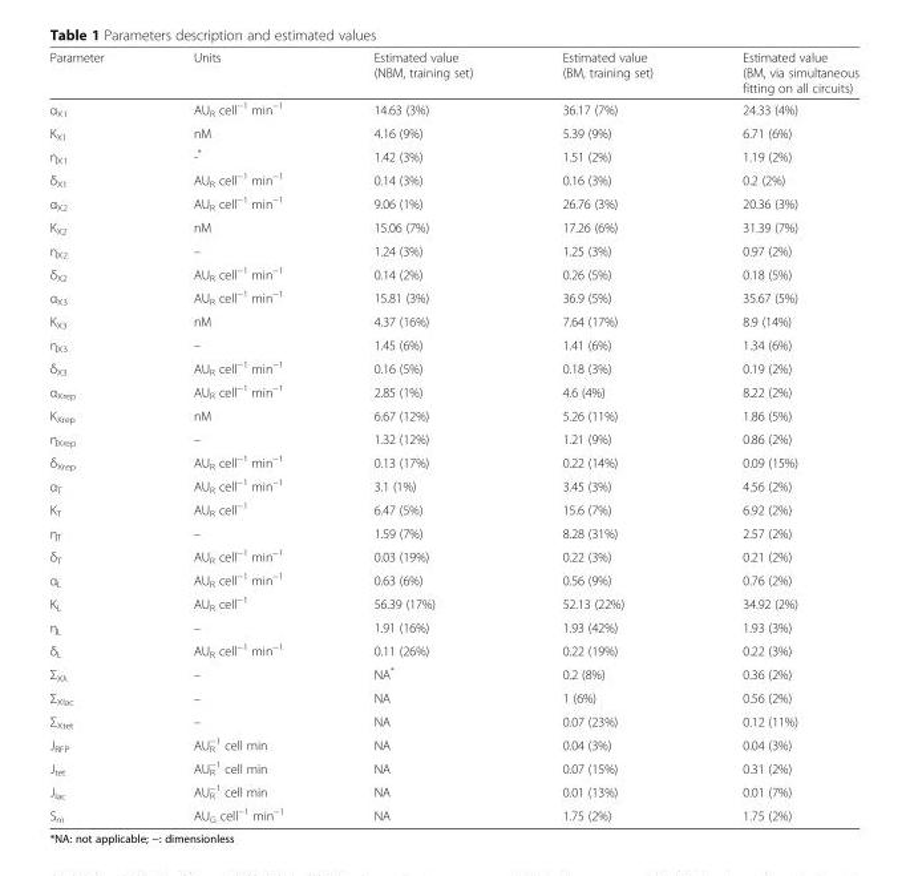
<table><thead><tr><td>Parameter</td><td>Units</td><td>Estimated value (NBM, training set)</td><td>Estimated value (BM, training set)</td><td>Estimated value (BM, via simultaneous fitting on all circuits)</td></tr></thead><tbody><tr><td>α<sub>X1</sub></td><td>AU<sub>R</sub> cell<sup>−1</sup> min<sup>−1</sup></td><td>14.63 (3%)</td><td>36.17 (7%)</td><td>24.33 (4%)</td></tr><tr><td>K<sub>X1</sub></td><td>nM</td><td>4.16 (9%)</td><td>5.39 (9%)</td><td>6.71 (6%)</td></tr><tr><td>η<sub>X1</sub></td><td>-*</td><td>1.42 (3%)</td><td>1.51 (2%)</td><td>1.19 (2%)</td></tr><tr><td>δ<sub>X1</sub></td><td>AU<sub>R</sub> cell<sup>−1</sup> min<sup>−1</sup></td><td>0.14 (3%)</td><td>0.16 (3%)</td><td>0.2 (2%)</td></tr><tr><td>α<sub>X2</sub></td><td>AU<sub>R</sub> cell<sup>−1</sup> min<sup>−1</sup></td><td>9.06 (1%)</td><td>26.76 (3%)</td><td>20.36 (3%)</td></tr><tr><td>K<sub>X2</sub></td><td>nM</td><td>15.06 (7%)</td><td>17.26 (6%)</td><td>31.39 (7%)</td></tr><tr><td>η<sub>X2</sub></td><td>–</td><td>1.24 (3%)</td><td>1.25 (3%)</td><td>0.97 (2%)</td></tr><tr><td>δ<sub>X2</sub></td><td>AU<sub>R</sub> cell<sup>−1</sup> min<sup>−1</sup></td><td>0.14 (2%)</td><td>0.26 (5%)</td><td>0.18 (5%)</td></tr><tr><td>α<sub>X3</sub></td><td>AU<sub>R</sub> cell<sup>−1</sup> min<sup>−1</sup></td><td>15.81 (3%)</td><td>36.9 (5%)</td><td>35.67 (5%)</td></tr><tr><td>K<sub>X3</sub></td><td>nM</td><td>4.37 (16%)</td><td>7.64 (17%)</td><td>8.9 (14%)</td></tr><tr><td>η<sub>X3</sub></td><td>–</td><td>1.45 (6%)</td><td>1.41 (6%)</td><td>1.34 (6%)</td></tr><tr><td>δ<sub>X3</sub></td><td>AU<sub>R</sub> cell<sup>−1</sup> min<sup>−1</sup></td><td>0.16 (5%)</td><td>0.18 (3%)</td><td>0.19 (2%)</td></tr><tr><td>α<sub>Xrep</sub></td><td>AU<sub>R</sub> cell<sup>−1</sup> min<sup>−1</sup></td><td>2.85 (1%)</td><td>4.6 (4%)</td><td>8.22 (2%)</td></tr><tr><td>K<sub>Xrep</sub></td><td>nM</td><td>6.67 (12%)</td><td>5.26 (11%)</td><td>1.86 (5%)</td></tr><tr><td>η<sub>Xrep</sub></td><td>–</td><td>1.32 (12%)</td><td>1.21 (9%)</td><td>0.86 (2%)</td></tr><tr><td>δ<sub>Xrep</sub></td><td>AU<sub>R</sub> cell<sup>−1</sup> min<sup>−1</sup></td><td>0.13 (17%)</td><td>0.22 (14%)</td><td>0.09 (15%)</td></tr><tr><td>α<sub>T</sub></td><td>AU<sub>R</sub> cell<sup>−1</sup> min<sup>−1</sup></td><td>3.1 (1%)</td><td>3.45 (3%)</td><td>4.56 (2%)</td></tr><tr><td>K<sub>T</sub></td><td>AU<sub>R</sub> cell<sup>−1</sup></td><td>6.47 (5%)</td><td>15.6 (7%)</td><td>6.92 (2%)</td></tr><tr><td>η<sub>T</sub></td><td>–</td><td>1.59 (7%)</td><td>8.28 (31%)</td><td>2.57 (2%)</td></tr><tr><td>δ<sub>T</sub></td><td>AU<sub>R</sub> cell<sup>−1</sup> min<sup>−1</sup></td><td>0.03 (19%)</td><td>0.22 (3%)</td><td>0.21 (2%)</td></tr><tr><td>α<sub>L</sub></td><td>AU<sub>R</sub> cell<sup>−1</sup> min<sup>−1</sup></td><td>0.63 (6%)</td><td>0.56 (9%)</td><td>0.76 (2%)</td></tr><tr><td>K<sub>L</sub></td><td>AU<sub>R</sub> cell<sup>−1</sup></td><td>56.39 (17%)</td><td>52.13 (22%)</td><td>34.92 (2%)</td></tr><tr><td>η<sub>L</sub></td><td>–</td><td>1.91 (16%)</td><td>1.93 (42%)</td><td>1.93 (3%)</td></tr><tr><td>δ<sub>L</sub></td><td>AU<sub>R</sub> cell<sup>−1</sup> min<sup>−1</sup></td><td>0.11 (26%)</td><td>0.22 (19%)</td><td>0.22 (3%)</td></tr><tr><td>Σ<sub>Xλ</sub></td><td>–</td><td>NA*</td><td>0.2 (8%)</td><td>0.36 (2%)</td></tr><tr><td>Σ<sub>Xlac</sub></td><td>–</td><td>NA</td><td>1 (6%)</td><td>0.56 (2%)</td></tr><tr><td>Σ<sub>Xtet</sub></td><td>–</td><td>NA</td><td>0.07 (23%)</td><td>0.12 (11%)</td></tr><tr><td>J<sub>RFP</sub></td><td>AU<sub>R</sub> <sup>−1</sup> cell min</td><td>NA</td><td>0.04 (3%)</td><td>0.04 (3%)</td></tr><tr><td>J<sub>tet</sub></td><td>AU<sub>R</sub> <sup>−1</sup> cell min</td><td>NA</td><td>0.07 (15%)</td><td>0.31 (2%)</td></tr><tr><td>J<sub>lac</sub></td><td>AU<sub>R</sub> <sup>−1</sup> cell min</td><td>NA</td><td>0.01 (13%)</td><td>0.01 (7%)</td></tr><tr><td>S<sub>m</sub></td><td>AU<sub>G</sub> cell<sup>−1</sup> min<sup>−1</sup></td><td>NA</td><td>1.75 (2%)</td><td>1.75 (2%)</td></tr></tbody></table>